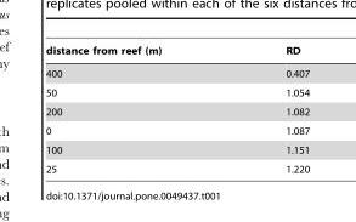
<table><thead><tr><td>distance from reef (m)</td><td>RD</td></tr></thead><tbody><tr><td>400</td><td>0.407</td></tr><tr><td>50</td><td>1.054</td></tr><tr><td>200</td><td>1.082</td></tr><tr><td>0</td><td>1.087</td></tr><tr><td>100</td><td>1.151</td></tr><tr><td>25</td><td>1.220</td></tr></tbody></table>